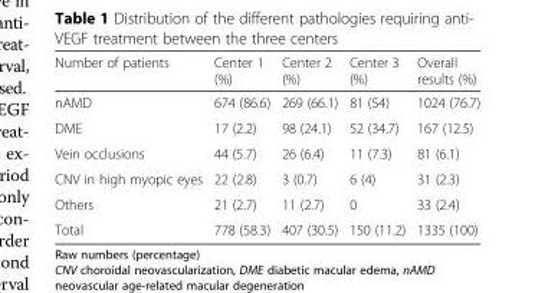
<table><thead><tr><td>Number of patients</td><td>Center 1 (%)</td><td>Center 2 (%)</td><td>Center 3 (%)</td><td>Overall results (%)</td></tr></thead><tbody><tr><td>nAMD</td><td>674 (86.6)</td><td>269 (66.1)</td><td>81 (54)</td><td>1024 (76.7)</td></tr><tr><td>DME</td><td>17 (2.2)</td><td>98 (24.1)</td><td>52 (34.7)</td><td>167 (12.5)</td></tr><tr><td>Vein occlusions</td><td>44 (5.7)</td><td>26 (6.4)</td><td>11 (7.3)</td><td>81 (6.1)</td></tr><tr><td>CNV in high myopic eyes</td><td>22 (2.8)</td><td>3 (0.7)</td><td>6 (4)</td><td>31 (2.3)</td></tr><tr><td>Others</td><td>21 (2.7)</td><td>11 (2.7)</td><td>0</td><td>33 (2.4)</td></tr><tr><td>Total</td><td>778 (58.3)</td><td>407 (30.5)</td><td>150 (11.2)</td><td>1335 (100)</td></tr></tbody></table>